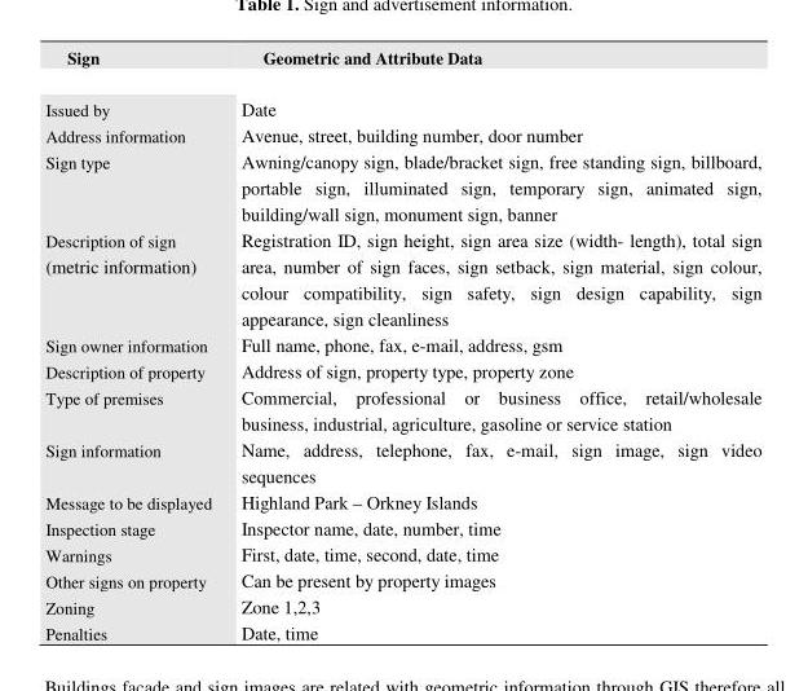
<table><thead><tr><td>Sign</td><td>Geometric and Attribute Data</td></tr></thead><tbody><tr><td>Issued by</td><td>Date</td></tr><tr><td>Address information</td><td>Avenue, street, building number, door number</td></tr><tr><td>Sign type</td><td>Awning/canopy sign, blade/bracket sign, free standing sign, billboard, portable sign, illuminated sign, temporary sign, animated sign, building/wall sign, monument sign, banner</td></tr><tr><td>Description of sign (metric information)</td><td>Registration ID, sign height, sign area size (width- length), total sign area, number of sign faces, sign setback, sign material, sign colour, colour compatibility, sign safety, sign design capability, sign appearance, sign cleanliness</td></tr><tr><td>Sign owner information</td><td>Full name, phone, fax, e-mail, address, gsm</td></tr><tr><td>Description of property</td><td>Address of sign, property type, property zone</td></tr><tr><td>Type of premises</td><td>Commercial, professional or business office, retail/wholesale business, industrial, agriculture, gasoline or service station</td></tr><tr><td>Sign information</td><td>Name, address, telephone, fax, e-mail, sign image, sign video sequences</td></tr><tr><td>Message to be displayed</td><td>Highland Park – Orkney Islands</td></tr><tr><td>Inspection stage</td><td>Inspector name, date, number, time</td></tr><tr><td>Warnings</td><td>First, date, time, second, date, time</td></tr><tr><td>Other signs on property</td><td>Can be present by property images</td></tr><tr><td>Zoning</td><td>Zone 1,2,3</td></tr><tr><td>Penalties</td><td>Date, time</td></tr></tbody></table>